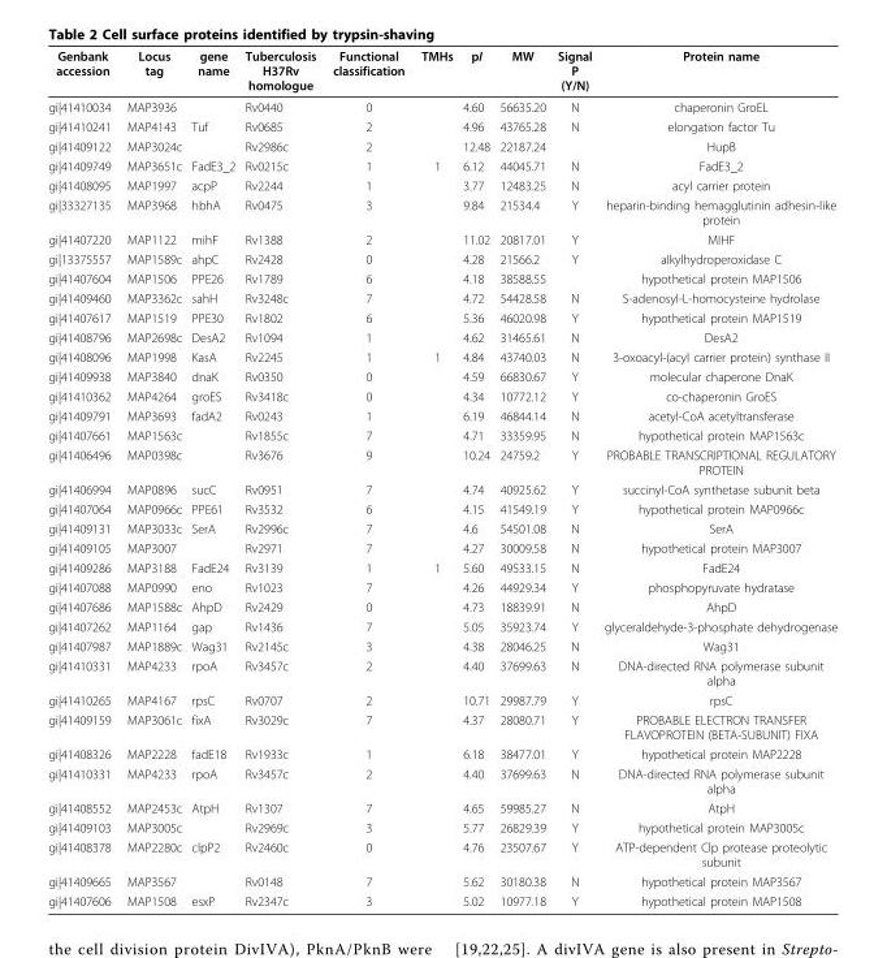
<table><thead><tr><td>Genbank accession</td><td>Locus tag</td><td>gene name</td><td>Tuberculosis H37Rv homologue</td><td>Functional classification</td><td>TMHs</td><td>pI</td><td>MW</td><td>Signal P (Y/N)</td><td>Protein name</td></tr></thead><tbody><tr><td>gi|41410034</td><td>MAP3936</td><td></td><td>Rv0440</td><td>0</td><td></td><td>4.60</td><td>56635.20</td><td>N</td><td>chaperonin GroEL</td></tr><tr><td>gi|41410241</td><td>MAP4143</td><td>Tuf</td><td>Rv0685</td><td>2</td><td></td><td>4.96</td><td>43765.28</td><td>N</td><td>elongation factor Tu</td></tr><tr><td>gi|41409122</td><td>MAP3024c</td><td></td><td>Rv2986c</td><td>2</td><td></td><td>12.48</td><td>22187.24</td><td></td><td>HupB</td></tr><tr><td>gi|41409749</td><td>MAP3651c</td><td>FadE3_2</td><td>Rv0215c</td><td>1</td><td>1</td><td>6.12</td><td>44045.71</td><td>N</td><td>FadE3_2</td></tr><tr><td>gi|41408095</td><td>MAP1997</td><td>acpP</td><td>Rv2244</td><td>1</td><td></td><td>3.77</td><td>12483.25</td><td>N</td><td>acyl carrier protein</td></tr><tr><td>gi|33327135</td><td>MAP3968</td><td>hbhA</td><td>Rv0475</td><td>3</td><td></td><td>9.84</td><td>21534.4</td><td>Y</td><td>heparin-binding hemagglutinin adhesin-like protein</td></tr><tr><td>gi|41407220</td><td>MAP1122</td><td>mihF</td><td>Rv1388</td><td>2</td><td></td><td>11.02</td><td>20817.01</td><td>Y</td><td>MIHF</td></tr><tr><td>gi|13375557</td><td>MAP1589c</td><td>ahpC</td><td>Rv2428</td><td>0</td><td></td><td>4.28</td><td>21566.2</td><td>Y</td><td>alkylhydroperoxidase C</td></tr><tr><td>gi|41407604</td><td>MAP1506</td><td>PPE26</td><td>Rv1789</td><td>6</td><td></td><td>4.18</td><td>38588.55</td><td></td><td>hypothetical protein MAP1506</td></tr><tr><td>gi|41409460</td><td>MAP3362c</td><td>sahH</td><td>Rv3248c</td><td>7</td><td></td><td>4.72</td><td>54428.58</td><td>N</td><td>S-adenosyl-L-homocysteine hydrolase</td></tr><tr><td>gi|41407617</td><td>MAP1519</td><td>PPE30</td><td>Rv1802</td><td>6</td><td></td><td>5.36</td><td>46020.98</td><td>Y</td><td>hypothetical protein MAP1519</td></tr><tr><td>gi|41408796</td><td>MAP2698c</td><td>DesA2</td><td>Rv1094</td><td>1</td><td></td><td>4.62</td><td>31465.61</td><td>N</td><td>DesA2</td></tr><tr><td>gi|41408096</td><td>MAP1998</td><td>KasA</td><td>Rv2245</td><td>1</td><td>1</td><td>4.84</td><td>43740.03</td><td>N</td><td>3-oxoacyl-(acyl carrier protein) synthase II</td></tr><tr><td>gi|41409938</td><td>MAP3840</td><td>dnaK</td><td>Rv0350</td><td>0</td><td></td><td>4.59</td><td>66830.67</td><td>Y</td><td>molecular chaperone DnaK</td></tr><tr><td>gi|41410362</td><td>MAP4264</td><td>groES</td><td>Rv3418c</td><td>0</td><td></td><td>4.34</td><td>10772.12</td><td>Y</td><td>co-chaperonin GroES</td></tr><tr><td>gi|41409791</td><td>MAP3693</td><td>fadA2</td><td>Rv0243</td><td>1</td><td></td><td>6.19</td><td>46844.14</td><td>N</td><td>acetyl-CoA acetyltransferase</td></tr><tr><td>gi|41407661</td><td>MAP1563c</td><td></td><td>Rv1855c</td><td>7</td><td></td><td>4.71</td><td>33359.95</td><td>N</td><td>hypothetical protein MAP1563c</td></tr><tr><td>gi|41406496</td><td>MAP0398c</td><td></td><td>Rv3676</td><td>9</td><td></td><td>10.24</td><td>24759.2</td><td>Y</td><td>PROBABLE TRANSCRIPTIONAL REGULATORY PROTEIN</td></tr><tr><td>gi|41406994</td><td>MAP0896</td><td>sucC</td><td>Rv0951</td><td>7</td><td></td><td>4.74</td><td>40925.62</td><td>Y</td><td>succinyl-CoA synthetase subunit beta</td></tr><tr><td>gi|41407064</td><td>MAP0966c</td><td>PPE61</td><td>Rv3532</td><td>6</td><td></td><td>4.15</td><td>41549.19</td><td>Y</td><td>hypothetical protein MAP0966c</td></tr><tr><td>gi|41409131</td><td>MAP3033c</td><td>SerA</td><td>Rv2996c</td><td>7</td><td></td><td>4.6</td><td>54501.08</td><td>N</td><td>SerA</td></tr><tr><td>gi|41409105</td><td>MAP3007</td><td></td><td>Rv2971</td><td>7</td><td></td><td>4.27</td><td>30009.58</td><td>N</td><td>hypothetical protein MAP3007</td></tr><tr><td>gi|41409286</td><td>MAP3188</td><td>FadE24</td><td>Rv3139</td><td>1</td><td>1</td><td>5.60</td><td>49533.15</td><td>N</td><td>FadE24</td></tr><tr><td>gi|41407088</td><td>MAP0990</td><td>eno</td><td>Rv1023</td><td>7</td><td></td><td>4.26</td><td>44929.34</td><td>Y</td><td>phosphopyruvate hydratase</td></tr><tr><td>gi|41407686</td><td>MAP1588c</td><td>AhpD</td><td>Rv2429</td><td>0</td><td></td><td>4.73</td><td>18839.91</td><td>N</td><td>AhpD</td></tr><tr><td>gi|41407262</td><td>MAP1164</td><td>gap</td><td>Rv1436</td><td>7</td><td></td><td>5.05</td><td>35923.74</td><td>Y</td><td>glyceraldehyde-3-phosphate dehydrogenase</td></tr><tr><td>gi|41407987</td><td>MAP1889c</td><td>Wag31</td><td>Rv2145c</td><td>3</td><td></td><td>4.38</td><td>28046.25</td><td>N</td><td>Wag31</td></tr><tr><td>gi|41410331</td><td>MAP4233</td><td>rpoA</td><td>Rv3457c</td><td>2</td><td></td><td>4.40</td><td>37699.63</td><td>N</td><td>DNA-directed RNA polymerase subunit alpha</td></tr><tr><td>gi|41410265</td><td>MAP4167</td><td>rpsC</td><td>Rv0707</td><td>2</td><td></td><td>10.71</td><td>29987.79</td><td>Y</td><td>rpsC</td></tr><tr><td>gi|41409159</td><td>MAP3061c</td><td>fixA</td><td>Rv3029c</td><td>7</td><td></td><td>4.37</td><td>28080.71</td><td>Y</td><td>PROBABLE ELECTRON TRANSFER FLAVOPROTEIN (BETA-SUBUNIT) FIXA</td></tr><tr><td>gi|41408326</td><td>MAP2228</td><td>fadE18</td><td>Rv1933c</td><td>1</td><td></td><td>6.18</td><td>38477.01</td><td>Y</td><td>hypothetical protein MAP2228</td></tr><tr><td>gi|41410331</td><td>MAP4233</td><td>rpoA</td><td>Rv3457c</td><td>2</td><td></td><td>4.40</td><td>37699.63</td><td>N</td><td>DNA-directed RNA polymerase subunit alpha</td></tr><tr><td>gi|41408552</td><td>MAP2453c</td><td>AtpH</td><td>Rv1307</td><td>7</td><td></td><td>4.65</td><td>59985.27</td><td>N</td><td>AtpH</td></tr><tr><td>gi|41409103</td><td>MAP3005c</td><td></td><td>Rv2969c</td><td>3</td><td></td><td>5.77</td><td>26829.39</td><td>Y</td><td>hypothetical protein MAP3005c</td></tr><tr><td>gi|41408378</td><td>MAP2280c</td><td>clpP2</td><td>Rv2460c</td><td>0</td><td></td><td>4.76</td><td>23507.67</td><td>Y</td><td>ATP-dependent Clp protease proteolytic subunit</td></tr><tr><td>gi|41409665</td><td>MAP3567</td><td></td><td>Rv0148</td><td>7</td><td></td><td>5.62</td><td>30180.38</td><td>N</td><td>hypothetical protein MAP3567</td></tr><tr><td>gi|41407606</td><td>MAP1508</td><td>esxP</td><td>Rv2347c</td><td>3</td><td></td><td>5.02</td><td>10977.18</td><td>Y</td><td>hypothetical protein MAP1508</td></tr></tbody></table>